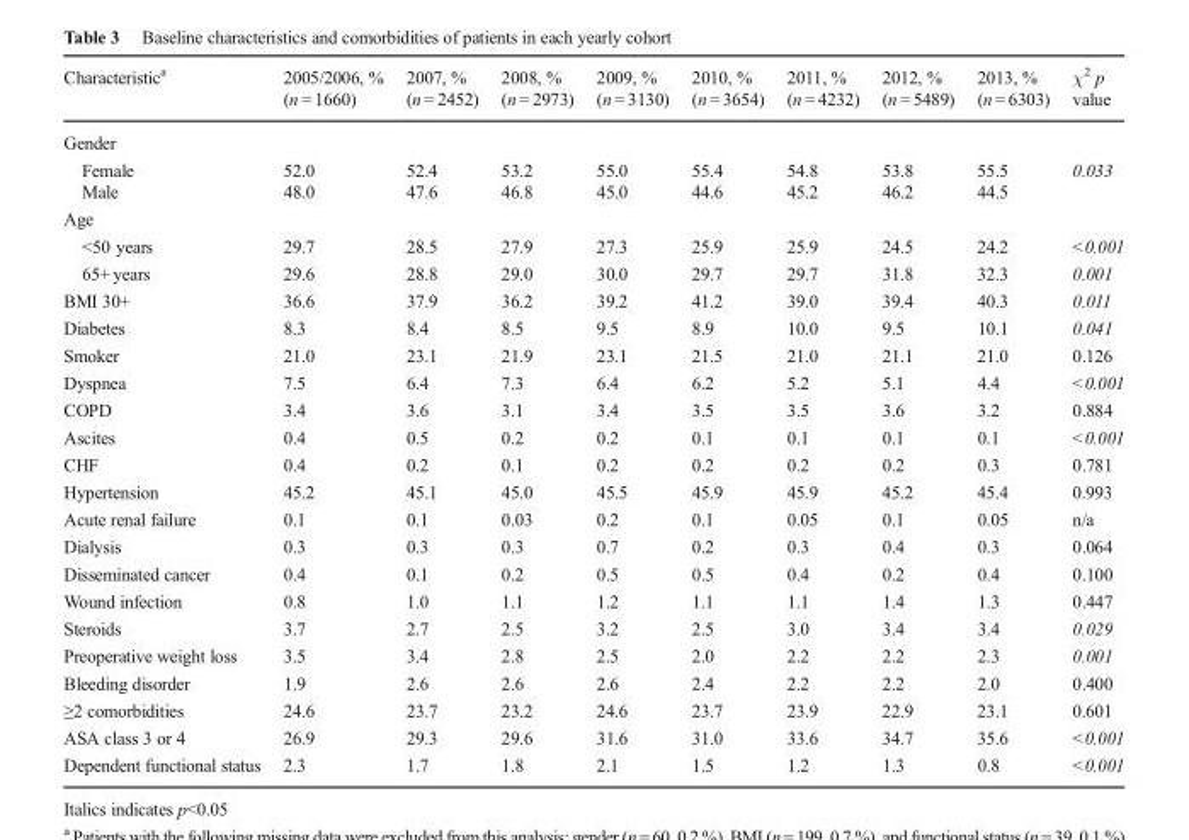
<table><thead><tr><td>Characteristic<sup>a</sup></td><td>2005/2006, % (n = 1660)</td><td>2007, % (n = 2452)</td><td>2008, % (n = 2973)</td><td>2009, % (n = 3130)</td><td>2010, % (n = 3654)</td><td>2011, % (n = 4232)</td><td>2012, % (n = 5489)</td><td>2013, % (n = 6303)</td><td>χ<sup>2</sup> p value</td></tr></thead><tbody><tr><td colspan="10">Gender</td></tr><tr><td>Female</td><td>52.0</td><td>52.4</td><td>53.2</td><td>55.0</td><td>55.4</td><td>54.8</td><td>53.8</td><td>55.5</td><td rowspan="2">0.033</td></tr><tr><td>Male</td><td>48.0</td><td>47.6</td><td>46.8</td><td>45.0</td><td>44.6</td><td>45.2</td><td>46.2</td><td>44.5</td></tr><tr><td colspan="10">Age</td></tr><tr><td>&lt;50 years</td><td>29.7</td><td>28.5</td><td>27.9</td><td>27.3</td><td>25.9</td><td>25.9</td><td>24.5</td><td>24.2</td><td>&lt;0.001</td></tr><tr><td>65+ years</td><td>29.6</td><td>28.8</td><td>29.0</td><td>30.0</td><td>29.7</td><td>29.7</td><td>31.8</td><td>32.3</td><td>0.001</td></tr><tr><td>BMI 30+</td><td>36.6</td><td>37.9</td><td>36.2</td><td>39.2</td><td>41.2</td><td>39.0</td><td>39.4</td><td>40.3</td><td>0.011</td></tr><tr><td>Diabetes</td><td>8.3</td><td>8.4</td><td>8.5</td><td>9.5</td><td>8.9</td><td>10.0</td><td>9.5</td><td>10.1</td><td>0.041</td></tr><tr><td>Smoker</td><td>21.0</td><td>23.1</td><td>21.9</td><td>23.1</td><td>21.5</td><td>21.0</td><td>21.1</td><td>21.0</td><td>0.126</td></tr><tr><td>Dyspnea</td><td>7.5</td><td>6.4</td><td>7.3</td><td>6.4</td><td>6.2</td><td>5.2</td><td>5.1</td><td>4.4</td><td>&lt;0.001</td></tr><tr><td>COPD</td><td>3.4</td><td>3.6</td><td>3.1</td><td>3.4</td><td>3.5</td><td>3.5</td><td>3.6</td><td>3.2</td><td>0.884</td></tr><tr><td>Ascites</td><td>0.4</td><td>0.5</td><td>0.2</td><td>0.2</td><td>0.1</td><td>0.1</td><td>0.1</td><td>0.1</td><td>&lt;0.001</td></tr><tr><td>CHF</td><td>0.4</td><td>0.2</td><td>0.1</td><td>0.2</td><td>0.2</td><td>0.2</td><td>0.2</td><td>0.3</td><td>0.781</td></tr><tr><td>Hypertension</td><td>45.2</td><td>45.1</td><td>45.0</td><td>45.5</td><td>45.9</td><td>45.9</td><td>45.2</td><td>45.4</td><td>0.993</td></tr><tr><td>Acute renal failure</td><td>0.1</td><td>0.1</td><td>0.03</td><td>0.2</td><td>0.1</td><td>0.05</td><td>0.1</td><td>0.05</td><td>n/a</td></tr><tr><td>Dialysis</td><td>0.3</td><td>0.3</td><td>0.3</td><td>0.7</td><td>0.2</td><td>0.3</td><td>0.4</td><td>0.3</td><td>0.064</td></tr><tr><td>Disseminated cancer</td><td>0.4</td><td>0.1</td><td>0.2</td><td>0.5</td><td>0.5</td><td>0.4</td><td>0.2</td><td>0.4</td><td>0.100</td></tr><tr><td>Wound infection</td><td>0.8</td><td>1.0</td><td>1.1</td><td>1.2</td><td>1.1</td><td>1.1</td><td>1.4</td><td>1.3</td><td>0.447</td></tr><tr><td>Steroids</td><td>3.7</td><td>2.7</td><td>2.5</td><td>3.2</td><td>2.5</td><td>3.0</td><td>3.4</td><td>3.4</td><td>0.029</td></tr><tr><td>Preoperative weight loss</td><td>3.5</td><td>3.4</td><td>2.8</td><td>2.5</td><td>2.0</td><td>2.2</td><td>2.2</td><td>2.3</td><td>0.001</td></tr><tr><td>Bleeding disorder</td><td>1.9</td><td>2.6</td><td>2.6</td><td>2.6</td><td>2.4</td><td>2.2</td><td>2.2</td><td>2.0</td><td>0.400</td></tr><tr><td>≥2 comorbidities</td><td>24.6</td><td>23.7</td><td>23.2</td><td>24.6</td><td>23.7</td><td>23.9</td><td>22.9</td><td>23.1</td><td>0.601</td></tr><tr><td>ASA class 3 or 4</td><td>26.9</td><td>29.3</td><td>29.6</td><td>31.6</td><td>31.0</td><td>33.6</td><td>34.7</td><td>35.6</td><td>&lt;0.001</td></tr><tr><td>Dependent functional status</td><td>2.3</td><td>1.7</td><td>1.8</td><td>2.1</td><td>1.5</td><td>1.2</td><td>1.3</td><td>0.8</td><td>&lt;0.001</td></tr></tbody></table>